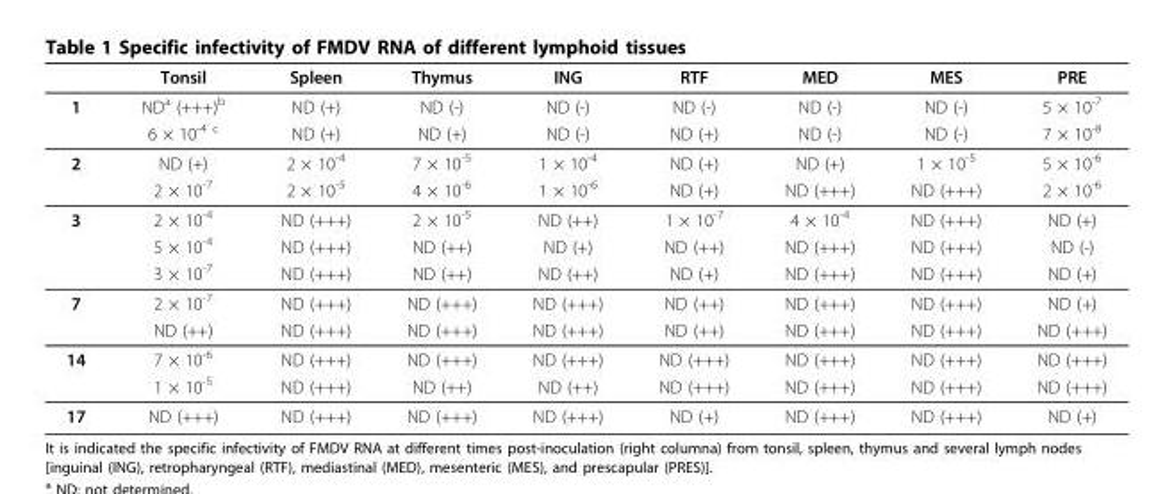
<table><thead><tr><td></td><td>Tonsil</td><td>Spleen</td><td>Thymus</td><td>ING</td><td>RTF</td><td>MED</td><td>MES</td><td>PRE</td></tr></thead><tbody><tr><td rowspan="2">1</td><td>ND<sup>a</sup> (+++)<sup>b</sup></td><td>ND (+)</td><td>ND (-)</td><td>ND (-)</td><td>ND (-)</td><td>ND (-)</td><td>ND (-)</td><td>5 × 10<sup>-7</sup></td></tr><tr><td>6 × 10<sup>-4 c</sup></td><td>ND (+)</td><td>ND (+)</td><td>ND (-)</td><td>ND (+)</td><td>ND (-)</td><td>ND (-)</td><td>7 × 10<sup>-8</sup></td></tr><tr><td rowspan="2">2</td><td>ND (+)</td><td>2 × 10<sup>-4</sup></td><td>7 × 10<sup>-5</sup></td><td>1 × 10<sup>-4</sup></td><td>ND (+)</td><td>ND (+)</td><td>1 × 10<sup>-5</sup></td><td>5 × 10<sup>-6</sup></td></tr><tr><td>2 × 10<sup>-7</sup></td><td>2 × 10<sup>-5</sup></td><td>4 × 10<sup>-6</sup></td><td>1 × 10<sup>-6</sup></td><td>ND (+)</td><td>ND (+++)</td><td>ND (+++)</td><td>2 × 10<sup>-6</sup></td></tr><tr><td rowspan="3">3</td><td>2 × 10<sup>-4</sup></td><td>ND (+++)</td><td>2 × 10<sup>-5</sup></td><td>ND (++)</td><td>1 × 10<sup>-7</sup></td><td>4 × 10<sup>-4</sup></td><td>ND (+++)</td><td>ND (+)</td></tr><tr><td>5 × 10<sup>-4</sup></td><td>ND (+++)</td><td>ND (++)</td><td>ND (+)</td><td>ND (++)</td><td>ND (+++)</td><td>ND (+++)</td><td>ND (-)</td></tr><tr><td>3 × 10<sup>-7</sup></td><td>ND (+++)</td><td>ND (++)</td><td>ND (++)</td><td>ND (+)</td><td>ND (+++)</td><td>ND (+++)</td><td>ND (+)</td></tr><tr><td rowspan="2">7</td><td>2 × 10<sup>-7</sup></td><td>ND (+++)</td><td>ND (+++)</td><td>ND (+++)</td><td>ND (++)</td><td>ND (+++)</td><td>ND (+++)</td><td>ND (+)</td></tr><tr><td>ND (++)</td><td>ND (+++)</td><td>ND (+++)</td><td>ND (+++)</td><td>ND (++)</td><td>ND (+++)</td><td>ND (+++)</td><td>ND (+++)</td></tr><tr><td rowspan="2">14</td><td>7 × 10<sup>-6</sup></td><td>ND (+++)</td><td>ND (+++)</td><td>ND (+++)</td><td>ND (+++)</td><td>ND (+++)</td><td>ND (+++)</td><td>ND (+++)</td></tr><tr><td>1 × 10<sup>-5</sup></td><td>ND (+++)</td><td>ND (++)</td><td>ND (++)</td><td>ND (+++)</td><td>ND (+++)</td><td>ND (+++)</td><td>ND (+++)</td></tr><tr><td>17</td><td>ND (+++)</td><td>ND (+++)</td><td>ND (+++)</td><td>ND (+++)</td><td>ND (+)</td><td>ND (+++)</td><td>ND (+++)</td><td>ND (+)</td></tr></tbody></table>